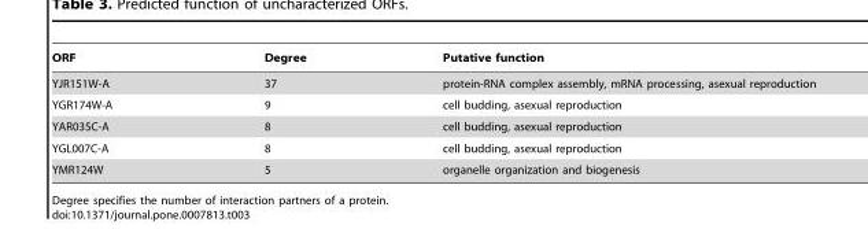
<table><thead><tr><td>ORF</td><td>Degree</td><td>Putative function</td></tr></thead><tbody><tr><td>YJR151W-A</td><td>37</td><td>protein-RNA complex assembly, mRNA processing, asexual reproduction</td></tr><tr><td>YGR174W-A</td><td>9</td><td>cell budding, asexual reproduction</td></tr><tr><td>YAR035C-A</td><td>8</td><td>cell budding, asexual reproduction</td></tr><tr><td>YGL007C-A</td><td>8</td><td>cell budding, asexual reproduction</td></tr><tr><td>YMR124W</td><td>5</td><td>organelle organization and biogenesis</td></tr></tbody></table>